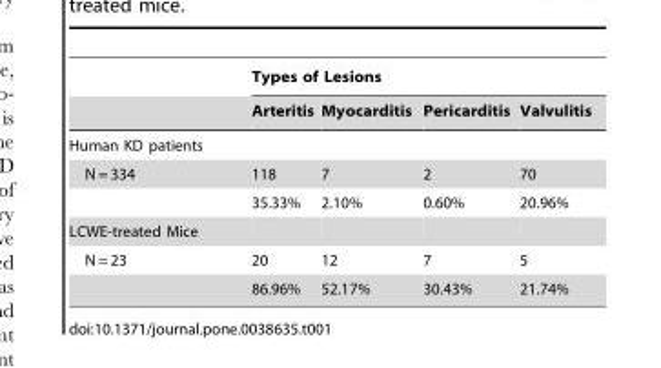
<table><thead><tr><td rowspan="2"></td><td colspan="4">Types of Lesions</td></tr><tr><td>Arteritis</td><td>Myocarditis</td><td>Pericarditis</td><td>Valvulitis</td></tr></thead><tbody><tr><td colspan="5">Human KD patients</td></tr><tr><td rowspan="2">N = 334</td><td>118</td><td>7</td><td>2</td><td>70</td></tr><tr><td>35.33%</td><td>2.10%</td><td>0.60%</td><td>20.96%</td></tr><tr><td colspan="5">LCWE-treated Mice</td></tr><tr><td rowspan="2">N = 23</td><td>20</td><td>12</td><td>7</td><td>5</td></tr><tr><td>86.96%</td><td>52.17%</td><td>30.43%</td><td>21.74%</td></tr></tbody></table>